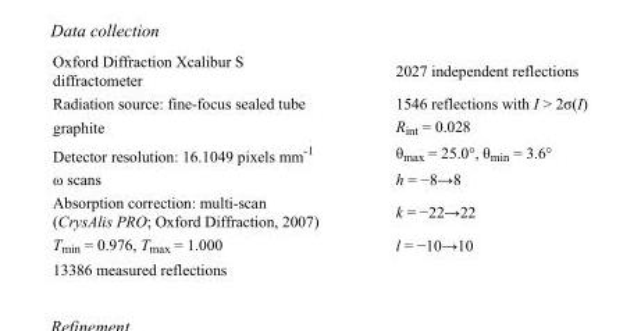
<table><tbody><tr><td>Oxford Diffraction Xcalibur S diffractometer</td><td>2027 independent reflections</td></tr><tr><td>Radiation source: fine-focus sealed tube</td><td>1546 reflections with I &gt; 2σ(I)</td></tr><tr><td>graphite</td><td>R<sub>int</sub> = 0.028</td></tr><tr><td>Detector resolution: 16.1049 pixels mm<sup>-1</sup></td><td>θ<sub>max</sub> = 25.0°, θ<sub>min</sub> = 3.6°</td></tr><tr><td>ω scans</td><td>h = −8→8</td></tr><tr><td>Absorption correction: multi-scan (CrysAlis PRO; Oxford Diffraction, 2007)</td><td>k = −22→22</td></tr><tr><td>T<sub>min</sub> = 0.976, T<sub>max</sub> = 1.000</td><td>l = −10→10</td></tr><tr><td>13386 measured reflections</td><td></td></tr></tbody></table>